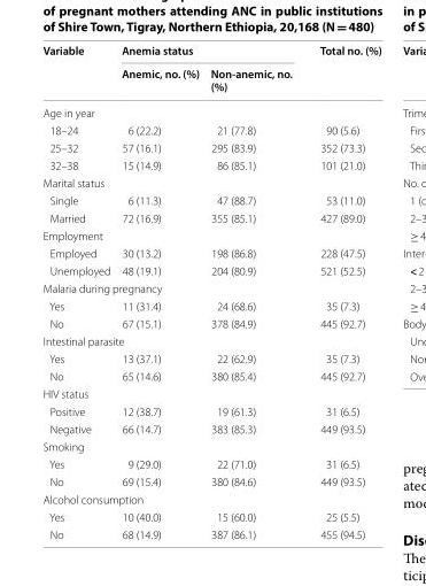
<table><thead><tr><td rowspan="2">Variable</td><td colspan="2">Anemia status</td><td rowspan="2">Total no. (%)</td></tr><tr><td>Anemic, no. (%)</td><td>Non‑anemic, no. (%)</td></tr></thead><tbody><tr><td colspan="4">Age in year</td></tr><tr><td>18–24</td><td>6 (22.2)</td><td>21 (77.8)</td><td>90 (5.6)</td></tr><tr><td>25–32</td><td>57 (16.1)</td><td>295 (83.9)</td><td>352 (73.3)</td></tr><tr><td>32–38</td><td>15 (14.9)</td><td>86 (85.1)</td><td>101 (21.0)</td></tr><tr><td colspan="4">Marital status</td></tr><tr><td>Single</td><td>6 (11.3)</td><td>47 (88.7)</td><td>53 (11.0)</td></tr><tr><td>Married</td><td>72 (16.9)</td><td>355 (85.1)</td><td>427 (89.0)</td></tr><tr><td colspan="4">Employment</td></tr><tr><td>Employed</td><td>30 (13.2)</td><td>198 (86.8)</td><td>228 (47.5)</td></tr><tr><td>Unemployed</td><td>48 (19.1)</td><td>204 (80.9)</td><td>521 (52.5)</td></tr><tr><td colspan="4">Malaria during pregnancy</td></tr><tr><td>Yes</td><td>11 (31.4)</td><td>24 (68.6)</td><td>35 (7.3)</td></tr><tr><td>No</td><td>67 (15.1)</td><td>378 (84.9)</td><td>445 (92.7)</td></tr><tr><td colspan="4">Intestinal parasite</td></tr><tr><td>Yes</td><td>13 (37.1)</td><td>22 (62.9)</td><td>35 (7.3)</td></tr><tr><td>No</td><td>65 (14.6)</td><td>380 (85.4)</td><td>445 (92.7)</td></tr><tr><td colspan="4">HIV status</td></tr><tr><td>Positive</td><td>12 (38.7)</td><td>19 (61.3)</td><td>31 (6.5)</td></tr><tr><td>Negative</td><td>66 (14.7)</td><td>383 (85.3)</td><td>449 (93.5)</td></tr><tr><td colspan="4">Smoking</td></tr><tr><td>Yes</td><td>9 (29.0)</td><td>22 (71.0)</td><td>31 (6.5)</td></tr><tr><td>No</td><td>69 (15.4)</td><td>380 (84.6)</td><td>449 (93.5)</td></tr><tr><td colspan="4">Alcohol consumption</td></tr><tr><td>Yes</td><td>10 (40.0)</td><td>15 (60.0)</td><td>25 (5.5)</td></tr><tr><td>No</td><td>68 (14.9)</td><td>387 (86.1)</td><td>455 (94.5)</td></tr></tbody></table>